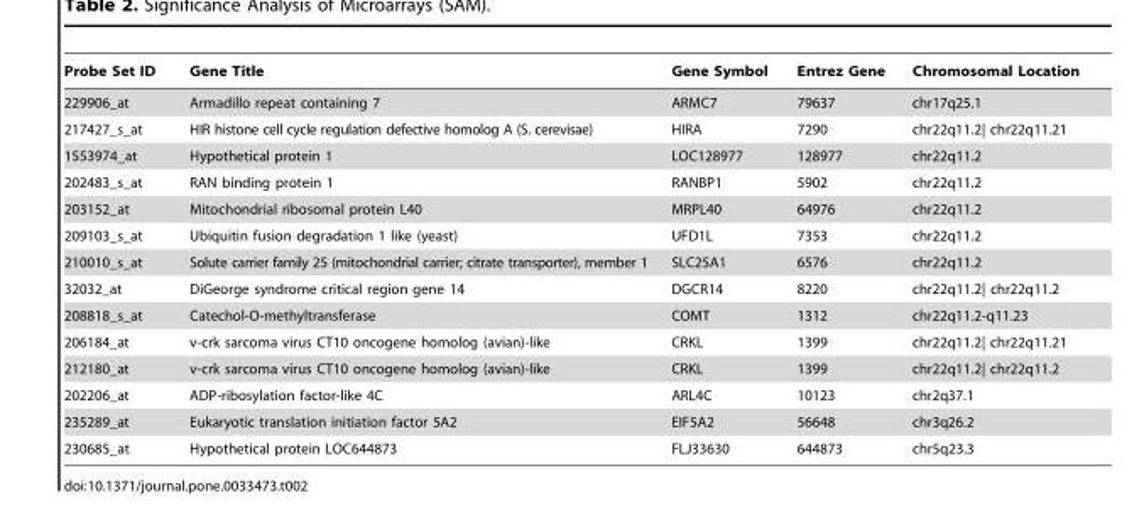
<table><thead><tr><td>Probe Set ID</td><td>Gene Title</td><td>Gene Symbol</td><td>Entrez Gene</td><td>Chromosomal Location</td></tr></thead><tbody><tr><td>229906_at</td><td>Armadillo repeat containing 7</td><td>ARMC7</td><td>79637</td><td>chr17q25.1</td></tr><tr><td>217427_s_at</td><td>HIR histone cell cycle regulation defective homolog A (S. cerevisae)</td><td>HIRA</td><td>7290</td><td>chr22q11.2| chr22q11.21</td></tr><tr><td>1553974_at</td><td>Hypothetical protein 1</td><td>LOC128977</td><td>128977</td><td>chr22q11.2</td></tr><tr><td>202483_s_at</td><td>RAN binding protein 1</td><td>RANBP1</td><td>5902</td><td>chr22q11.2</td></tr><tr><td>203152_at</td><td>Mitochondrial ribosomal protein L40</td><td>MRPL40</td><td>64976</td><td>chr22q11.2</td></tr><tr><td>209103_s_at</td><td>Ubiquitin fusion degradation 1 like (yeast)</td><td>UFD1L</td><td>7353</td><td>chr22q11.2</td></tr><tr><td>210010_s_at</td><td>Solute carrier family 25 (mitochondrial carrier; citrate transporter), member 1</td><td>SLC25A1</td><td>6576</td><td>chr22q11.2</td></tr><tr><td>32032_at</td><td>DiGeorge syndrome critical region gene 14</td><td>DGCR14</td><td>8220</td><td>chr22q11.2| chr22q11.2</td></tr><tr><td>208818_s_at</td><td>Catechol-O-methyltransferase</td><td>COMT</td><td>1312</td><td>chr22q11.2-q11.23</td></tr><tr><td>206184_at</td><td>v-crk sarcoma virus CT10 oncogene homolog (avian)-like</td><td>CRKL</td><td>1399</td><td>chr22q11.2| chr22q11.21</td></tr><tr><td>212180_at</td><td>v-crk sarcoma virus CT10 oncogene homolog (avian)-like</td><td>CRKL</td><td>1399</td><td>chr22q11.2| chr22q11.2</td></tr><tr><td>202206_at</td><td>ADP-ribosylation factor-like 4C</td><td>ARL4C</td><td>10123</td><td>chr2q37.1</td></tr><tr><td>235289_at</td><td>Eukaryotic translation initiation factor 5A2</td><td>EIF5A2</td><td>56648</td><td>chr3q26.2</td></tr><tr><td>230685_at</td><td>Hypothetical protein LOC644873</td><td>FLJ33630</td><td>644873</td><td>chr5q23.3</td></tr></tbody></table>